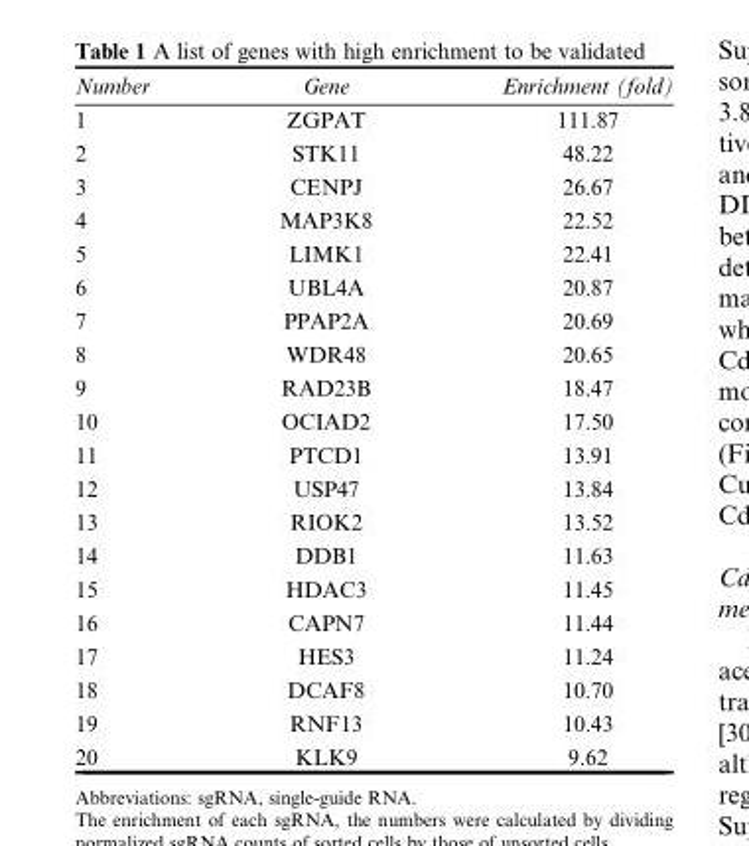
<table><thead><tr><td>Number</td><td>Gene</td><td>Enrichment (fold)</td></tr></thead><tbody><tr><td>1</td><td>ZGPAT</td><td>111.87</td></tr><tr><td>2</td><td>STK11</td><td>48.22</td></tr><tr><td>3</td><td>CENPJ</td><td>26.67</td></tr><tr><td>4</td><td>MAP3K8</td><td>22.52</td></tr><tr><td>5</td><td>LIMK1</td><td>22.41</td></tr><tr><td>6</td><td>UBL4A</td><td>20.87</td></tr><tr><td>7</td><td>PPAP2A</td><td>20.69</td></tr><tr><td>8</td><td>WDR48</td><td>20.65</td></tr><tr><td>9</td><td>RAD23B</td><td>18.47</td></tr><tr><td>10</td><td>OCIAD2</td><td>17.50</td></tr><tr><td>11</td><td>PTCD1</td><td>13.91</td></tr><tr><td>12</td><td>USP47</td><td>13.84</td></tr><tr><td>13</td><td>RIOK2</td><td>13.52</td></tr><tr><td>14</td><td>DDB1</td><td>11.63</td></tr><tr><td>15</td><td>HDAC3</td><td>11.45</td></tr><tr><td>16</td><td>CAPN7</td><td>11.44</td></tr><tr><td>17</td><td>HES3</td><td>11.24</td></tr><tr><td>18</td><td>DCAF8</td><td>10.70</td></tr><tr><td>19</td><td>RNF13</td><td>10.43</td></tr><tr><td>20</td><td>KLK9</td><td>9.62</td></tr></tbody></table>